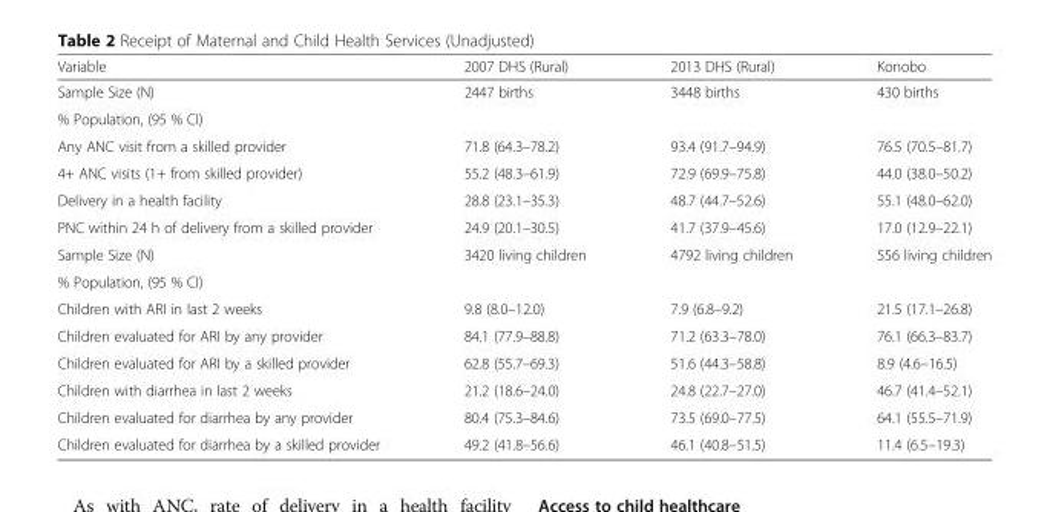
<table><thead><tr><td>Variable</td><td>2007 DHS (Rural)</td><td>2013 DHS (Rural)</td><td>Konobo</td></tr></thead><tbody><tr><td>Sample Size (N)</td><td>2447 births</td><td>3448 births</td><td>430 births</td></tr><tr><td colspan="4">% Population, (95 % CI)</td></tr><tr><td>Any ANC visit from a skilled provider</td><td>71.8 (64.3–78.2)</td><td>93.4 (91.7–94.9)</td><td>76.5 (70.5–81.7)</td></tr><tr><td>4+ ANC visits (1+ from skilled provider)</td><td>55.2 (48.3–61.9)</td><td>72.9 (69.9–75.8)</td><td>44.0 (38.0–50.2)</td></tr><tr><td>Delivery in a health facility</td><td>28.8 (23.1–35.3)</td><td>48.7 (44.7–52.6)</td><td>55.1 (48.0–62.0)</td></tr><tr><td>PNC within 24 h of delivery from a skilled provider</td><td>24.9 (20.1–30.5)</td><td>41.7 (37.9–45.6)</td><td>17.0 (12.9–22.1)</td></tr><tr><td>Sample Size (N)</td><td>3420 living children</td><td>4792 living children</td><td>556 living children</td></tr><tr><td colspan="4">% Population, (95 % CI)</td></tr><tr><td>Children with ARI in last 2 weeks</td><td>9.8 (8.0–12.0)</td><td>7.9 (6.8–9.2)</td><td>21.5 (17.1–26.8)</td></tr><tr><td>Children evaluated for ARI by any provider</td><td>84.1 (77.9–88.8)</td><td>71.2 (63.3–78.0)</td><td>76.1 (66.3–83.7)</td></tr><tr><td>Children evaluated for ARI by a skilled provider</td><td>62.8 (55.7–69.3)</td><td>51.6 (44.3–58.8)</td><td>8.9 (4.6–16.5)</td></tr><tr><td>Children with diarrhea in last 2 weeks</td><td>21.2 (18.6–24.0)</td><td>24.8 (22.7–27.0)</td><td>46.7 (41.4–52.1)</td></tr><tr><td>Children evaluated for diarrhea by any provider</td><td>80.4 (75.3–84.6)</td><td>73.5 (69.0–77.5)</td><td>64.1 (55.5–71.9)</td></tr><tr><td>Children evaluated for diarrhea by a skilled provider</td><td>49.2 (41.8–56.6)</td><td>46.1 (40.8–51.5)</td><td>11.4 (6.5–19.3)</td></tr></tbody></table>